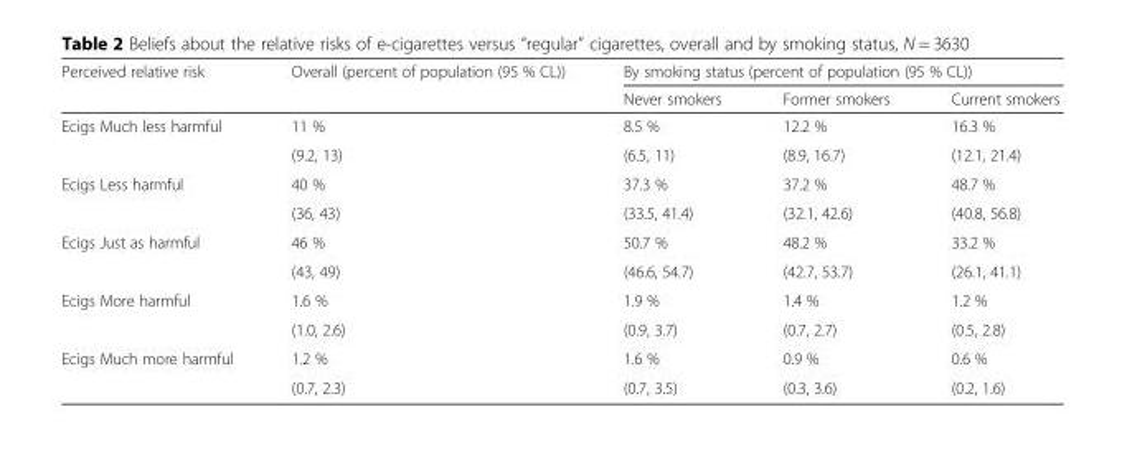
<table><thead><tr><td rowspan="2">Perceived relative risk</td><td rowspan="2">Overall (percent of population (95 % CL))</td><td colspan="3">By smoking status (percent of population (95 % CL))</td></tr><tr><td>Never smokers</td><td>Former smokers</td><td>Current smokers</td></tr></thead><tbody><tr><td rowspan="2">Ecigs Much less harmful</td><td>11 %</td><td>8.5 %</td><td>12.2 %</td><td>16.3 %</td></tr><tr><td>(9.2, 13)</td><td>(6.5, 11)</td><td>(8.9, 16.7)</td><td>(12.1, 21.4)</td></tr><tr><td rowspan="2">Ecigs Less harmful</td><td>40 %</td><td>37.3 %</td><td>37.2 %</td><td>48.7 %</td></tr><tr><td>(36, 43)</td><td>(33.5, 41.4)</td><td>(32.1, 42.6)</td><td>(40.8, 56.8)</td></tr><tr><td rowspan="2">Ecigs Just as harmful</td><td>46 %</td><td>50.7 %</td><td>48.2 %</td><td>33.2 %</td></tr><tr><td>(43, 49)</td><td>(46.6, 54.7)</td><td>(42.7, 53.7)</td><td>(26.1, 41.1)</td></tr><tr><td rowspan="2">Ecigs More harmful</td><td>1.6 %</td><td>1.9 %</td><td>1.4 %</td><td>1.2 %</td></tr><tr><td>(1.0, 2.6)</td><td>(0.9, 3.7)</td><td>(0.7, 2.7)</td><td>(0.5, 2.8)</td></tr><tr><td rowspan="2">Ecigs Much more harmful</td><td>1.2 %</td><td>1.6 %</td><td>0.9 %</td><td>0.6 %</td></tr><tr><td>(0.7, 2.3)</td><td>(0.7, 3.5)</td><td>(0.3, 3.6)</td><td>(0.2, 1.6)</td></tr></tbody></table>